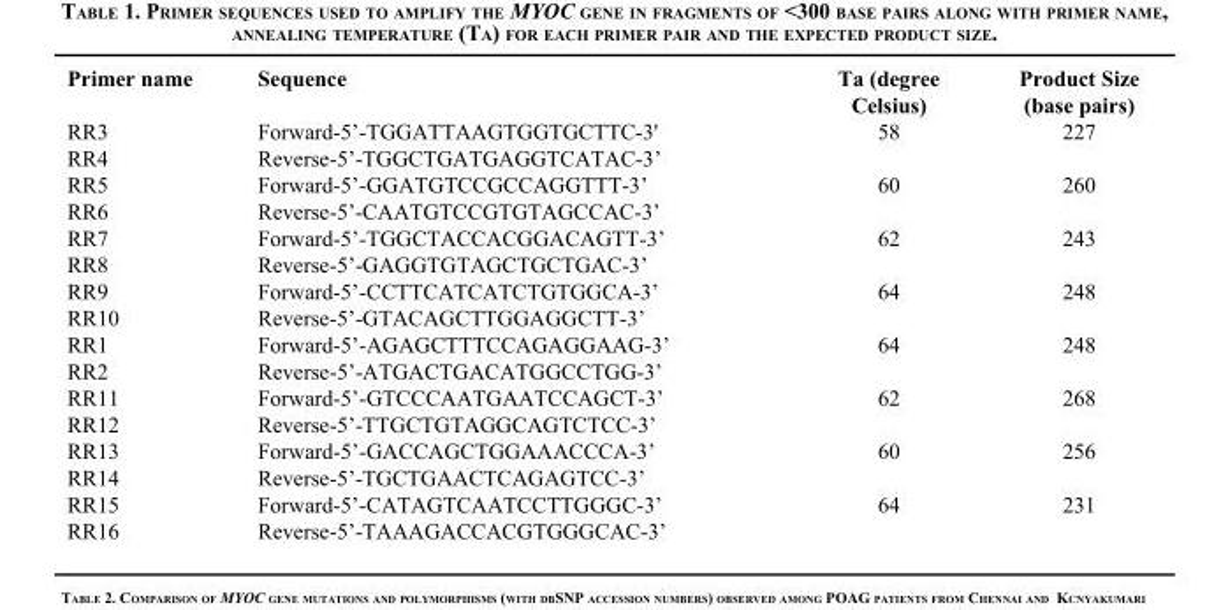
<table><thead><tr><td>Primer name</td><td>Sequence</td><td>Ta (degree Celsius)</td><td>Product Size (base pairs)</td></tr></thead><tbody><tr><td>RR3</td><td>Forward-5’-TGGATTAAGTGGTGCTTC-3&#x27;</td><td>58</td><td>227</td></tr><tr><td>RR4</td><td>Reverse-5’-TGGCTGATGAGGTCATAC-3’</td><td></td><td></td></tr><tr><td>RR5</td><td>Forward-5’-GGATGTCCGCCAGGTTT-3’</td><td>60</td><td>260</td></tr><tr><td>RR6</td><td>Reverse-5’-CAATGTCCGTGTAGCCAC-3’</td><td></td><td></td></tr><tr><td>RR7</td><td>Forward-5’-TGGCTACCACGGACAGTT-3’</td><td>62</td><td>243</td></tr><tr><td>RR8</td><td>Reverse-5’-GAGGTGTAGCTGCTGAC-3’</td><td></td><td></td></tr><tr><td>RR9</td><td>Forward-5’-CCTTCATCATCTGTGGCA-3’</td><td>64</td><td>248</td></tr><tr><td>RR10</td><td>Reverse-5’-GTACAGCTTGGAGGCTT-3’</td><td></td><td></td></tr><tr><td>RR1</td><td>Forward-5’-AGAGCTTTCCAGAGGAAG-3’</td><td>64</td><td>248</td></tr><tr><td>RR2</td><td>Reverse-5’-ATGACTGACATGGCCTGG-3’</td><td></td><td></td></tr><tr><td>RR11</td><td>Forward-5’-GTCCCAATGAATCCAGCT-3’</td><td>62</td><td>268</td></tr><tr><td>RR12</td><td>Reverse-5’-TTGCTGTAGGCAGTCTCC-3’</td><td></td><td></td></tr><tr><td>RR13</td><td>Forward-5’-GACCAGCTGGAAACCCA-3’</td><td>60</td><td>256</td></tr><tr><td>RR14</td><td>Reverse-5’-TGCTGAACTCAGAGTCC-3’</td><td></td><td></td></tr><tr><td>RR15</td><td>Forward-5’-CATAGTCAATCCTTGGGC-3’</td><td>64</td><td>231</td></tr><tr><td>RR16</td><td>Reverse-5’-TAAAGACCACGTGGGCAC-3’</td><td></td><td></td></tr></tbody></table>